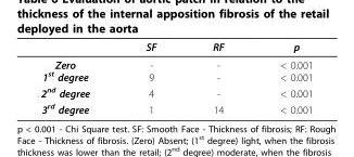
<table><thead><tr><td></td><td>SF</td><td>RF</td><td>p</td></tr></thead><tbody><tr><td>Zero 1<sup>st</sup> degree</td><td>- 9</td><td>- -</td><td>&lt; 0.001 &lt; 0.001</td></tr><tr><td>2<sup>nd</sup> degree</td><td>4</td><td>-</td><td>&lt; 0.001</td></tr><tr><td>3<sup>rd</sup> degree</td><td>1</td><td>14</td><td>&lt; 0.001</td></tr></tbody></table>